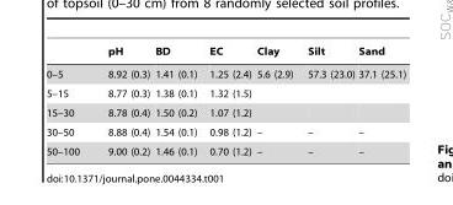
<table><thead><tr><td></td><td>pH</td><td>BD</td><td>EC</td><td>Clay</td><td>Silt</td><td>Sand</td></tr></thead><tbody><tr><td>0–5</td><td>8.92 (0.3)</td><td>1.41 (0.1)</td><td>1.25 (2.4)</td><td>5.6 (2.9)</td><td>57.3 (23.0)</td><td>37.1 (25.1)</td></tr><tr><td>5–15</td><td>8.77 (0.3)</td><td>1.38 (0.1)</td><td>1.32 (1.5)</td><td></td><td></td><td></td></tr><tr><td>15–30</td><td>8.78 (0.4)</td><td>1.50 (0.2)</td><td>1.07 (1.2)</td><td></td><td></td><td></td></tr><tr><td>30–50</td><td>8.88 (0.4)</td><td>1.54 (0.1)</td><td>0.98 (1.2)</td><td>–</td><td>–</td><td>–</td></tr><tr><td>50–100</td><td>9.00 (0.2)</td><td>1.46 (0.1)</td><td>0.70 (1.2)</td><td>–</td><td>–</td><td>–</td></tr></tbody></table>